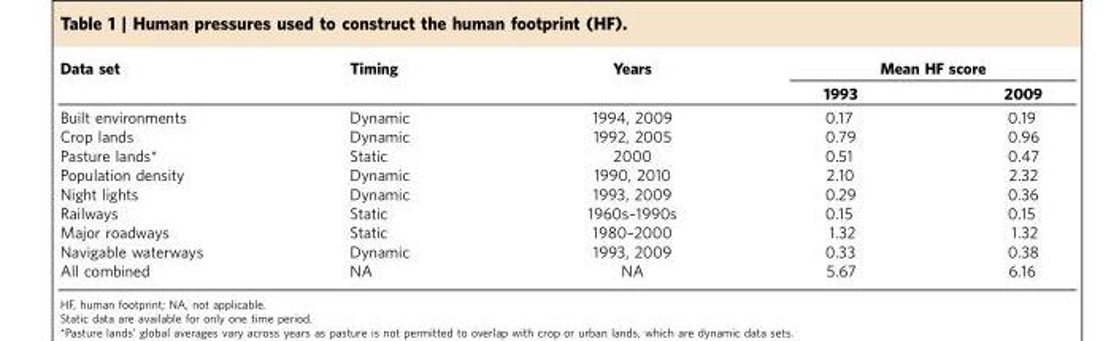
<table><thead><tr><td rowspan="2">Data set</td><td rowspan="2">Timing</td><td rowspan="2">Years</td><td colspan="2">Mean HF score</td></tr><tr><td>1993</td><td>2009</td></tr></thead><tbody><tr><td>Built environments</td><td>Dynamic</td><td>1994, 2009</td><td>0.17</td><td>0.19</td></tr><tr><td>Crop lands</td><td>Dynamic</td><td>1992, 2005</td><td>0.79</td><td>0.96</td></tr><tr><td>Pasture lands*</td><td>Static</td><td>2000</td><td>0.51</td><td>0.47</td></tr><tr><td>Population density</td><td>Dynamic</td><td>1990, 2010</td><td>2.10</td><td>2.32</td></tr><tr><td>Night lights</td><td>Dynamic</td><td>1993, 2009</td><td>0.29</td><td>0.36</td></tr><tr><td>Railways</td><td>Static</td><td>1960s–1990s</td><td>0.15</td><td>0.15</td></tr><tr><td>Major roadways</td><td>Static</td><td>1980–2000</td><td>1.32</td><td>1.32</td></tr><tr><td>Navigable waterways</td><td>Dynamic</td><td>1993, 2009</td><td>0.33</td><td>0.38</td></tr><tr><td>All combined</td><td>NA</td><td>NA</td><td>5.67</td><td>6.16</td></tr></tbody></table>